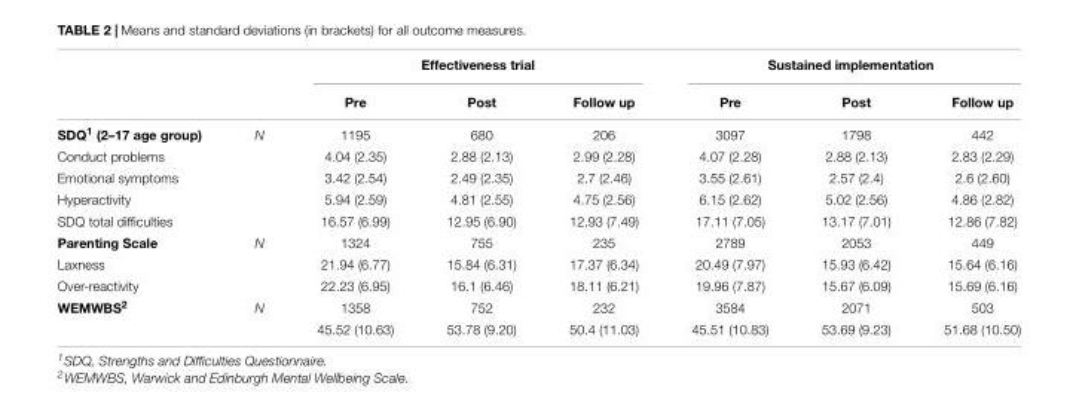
<table><thead><tr><td rowspan="2"></td><td rowspan="2"></td><td colspan="3">Effectiveness trial</td><td colspan="3">Sustained implementation</td></tr><tr><td>Pre</td><td>Post</td><td>Follow up</td><td>Pre</td><td>Post</td><td>Follow up</td></tr></thead><tbody><tr><td>SDQ<sup>1</sup> (2–17 age group)</td><td>N</td><td>1195</td><td>680</td><td>206</td><td>3097</td><td>1798</td><td>442</td></tr><tr><td>Conduct problems</td><td></td><td>4.04 (2.35)</td><td>2.88 (2.13)</td><td>2.99 (2.28)</td><td>4.07 (2.28)</td><td>2.88 (2.13)</td><td>2.83 (2.29)</td></tr><tr><td>Emotional symptoms</td><td></td><td>3.42 (2.54)</td><td>2.49 (2.35)</td><td>2.7 (2.46)</td><td>3.55 (2.61)</td><td>2.57 (2.4)</td><td>2.6 (2.60)</td></tr><tr><td>Hyperactivity</td><td></td><td>5.94 (2.59)</td><td>4.81 (2.55)</td><td>4.75 (2.56)</td><td>6.15 (2.62)</td><td>5.02 (2.56)</td><td>4.86 (2.82)</td></tr><tr><td>SDQ total difficulties</td><td></td><td>16.57 (6.99)</td><td>12.95 (6.90)</td><td>12.93 (7.49)</td><td>17.11 (7.05)</td><td>13.17 (7.01)</td><td>12.86 (7.82)</td></tr><tr><td>Parenting Scale</td><td>N</td><td>1324</td><td>755</td><td>235</td><td>2789</td><td>2053</td><td>449</td></tr><tr><td>Laxness</td><td></td><td>21.94 (6.77)</td><td>15.84 (6.31)</td><td>17.37 (6.34)</td><td>20.49 (7.97)</td><td>15.93 (6.42)</td><td>15.64 (6.16)</td></tr><tr><td>Over-reactivity</td><td></td><td>22.23 (6.95)</td><td>16.1 (6.46)</td><td>18.11 (6.21)</td><td>19.96 (7.87)</td><td>15.67 (6.09)</td><td>15.69 (6.16)</td></tr><tr><td rowspan="2">WEMWBS<sup>2</sup></td><td>N</td><td>1358</td><td>752</td><td>232</td><td>3584</td><td>2071</td><td>503</td></tr><tr><td></td><td>45.52 (10.63)</td><td>53.78 (9.20)</td><td>50.4 (11.03)</td><td>45.51 (10.83)</td><td>53.69 (9.23)</td><td>51.68 (10.50)</td></tr></tbody></table>